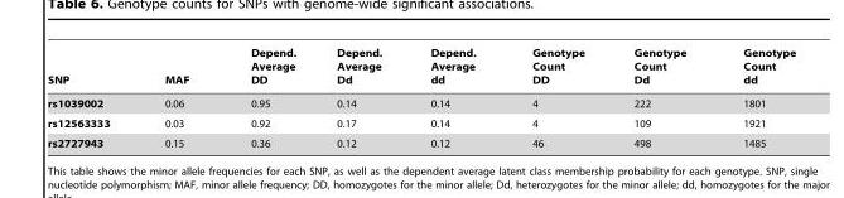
<table><thead><tr><td>SNP</td><td>MAF</td><td>Depend. Average DD</td><td>Depend. Average Dd</td><td>Depend. Average dd</td><td>Genotype Count DD</td><td>Genotype Count Dd</td><td>Genotype Count dd</td></tr></thead><tbody><tr><td>rs1039002</td><td>0.06</td><td>0.95</td><td>0.14</td><td>0.14</td><td>4</td><td>222</td><td>1801</td></tr><tr><td>rs12563333</td><td>0.03</td><td>0.92</td><td>0.17</td><td>0.14</td><td>4</td><td>109</td><td>1921</td></tr><tr><td>rs2727943</td><td>0.15</td><td>0.36</td><td>0.12</td><td>0.12</td><td>46</td><td>498</td><td>1485</td></tr></tbody></table>